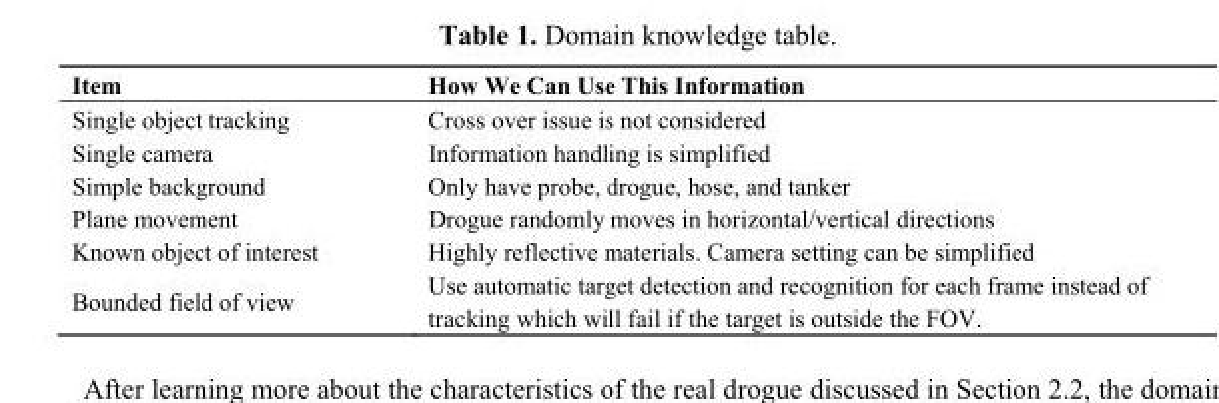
<table><thead><tr><td>Item</td><td>How We Can Use This Information</td></tr></thead><tbody><tr><td>Single object tracking</td><td>Cross over issue is not considered</td></tr><tr><td>Single camera</td><td>Information handling is simplified</td></tr><tr><td>Simple background</td><td>Only have probe, drogue, hose, and tanker</td></tr><tr><td>Plane movement</td><td>Drogue randomly moves in horizontal/vertical directions</td></tr><tr><td>Known object of interest</td><td>Highly reflective materials. Camera setting can be simplified</td></tr><tr><td>Bounded field of view</td><td>Use automatic target detection and recognition for each frame instead of tracking which will fail if the target is outside the FOV.</td></tr></tbody></table>